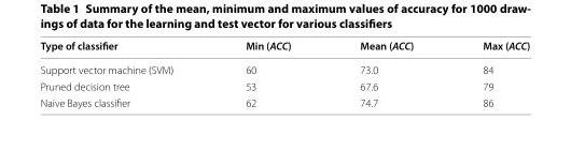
<table><thead><tr><td>Type of classifier</td><td>Min (ACC)</td><td>Mean (ACC)</td><td>Max (ACC)</td></tr></thead><tbody><tr><td>Support vector machine (SVM)</td><td>60</td><td>73.0</td><td>84</td></tr><tr><td>Pruned decision tree</td><td>53</td><td>67.6</td><td>79</td></tr><tr><td>Naive Bayes classifier</td><td>62</td><td>74.7</td><td>86</td></tr></tbody></table>